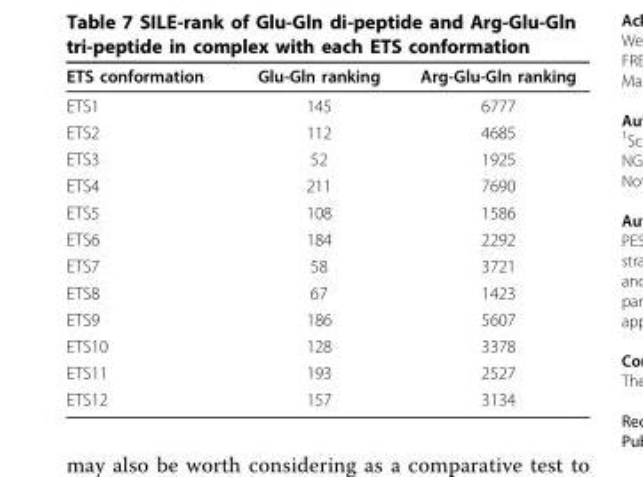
<table><thead><tr><td>ETS conformation</td><td>Glu-Gln ranking</td><td>Arg-Glu-Gln ranking</td></tr></thead><tbody><tr><td>ETS1</td><td>145</td><td>6777</td></tr><tr><td>ETS2</td><td>112</td><td>4685</td></tr><tr><td>ETS3</td><td>52</td><td>1925</td></tr><tr><td>ETS4</td><td>211</td><td>7690</td></tr><tr><td>ETS5</td><td>108</td><td>1586</td></tr><tr><td>ETS6</td><td>184</td><td>2292</td></tr><tr><td>ETS7</td><td>58</td><td>3721</td></tr><tr><td>ETS8</td><td>67</td><td>1423</td></tr><tr><td>ETS9</td><td>186</td><td>5607</td></tr><tr><td>ETS10</td><td>128</td><td>3378</td></tr><tr><td>ETS11</td><td>193</td><td>2527</td></tr><tr><td>ETS12</td><td>157</td><td>3134</td></tr></tbody></table>